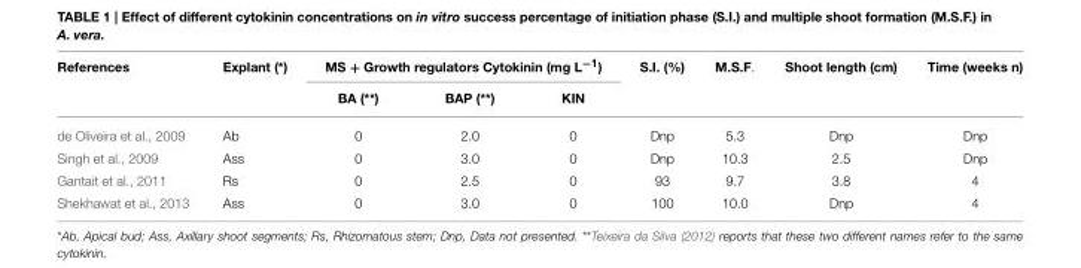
<table><thead><tr><td rowspan="2">References</td><td rowspan="2">Explant (*)</td><td colspan="3">MS + Growth regulators Cytokinin (mg L<sup>−1</sup>)</td><td rowspan="2">S.I. (%)</td><td rowspan="2">M.S.F.</td><td rowspan="2">Shoot length (cm)</td><td rowspan="2">Time (weeks n)</td></tr><tr><td>BA (**)</td><td>BAP (**)</td><td>KIN</td></tr></thead><tbody><tr><td>de Oliveira et al., 2009</td><td>Ab</td><td>0</td><td>2.0</td><td>0</td><td>Dnp</td><td>5.3</td><td>Dnp</td><td>Dnp</td></tr><tr><td>Singh et al., 2009</td><td>Ass</td><td>0</td><td>3.0</td><td>0</td><td>Dnp</td><td>10.3</td><td>2.5</td><td>Dnp</td></tr><tr><td>Gantait et al., 2011</td><td>Rs</td><td>0</td><td>2.5</td><td>0</td><td>93</td><td>9.7</td><td>3.8</td><td>4</td></tr><tr><td>Shekhawat et al., 2013</td><td>Ass</td><td>0</td><td>3.0</td><td>0</td><td>100</td><td>10.0</td><td>Dnp</td><td>4</td></tr></tbody></table>